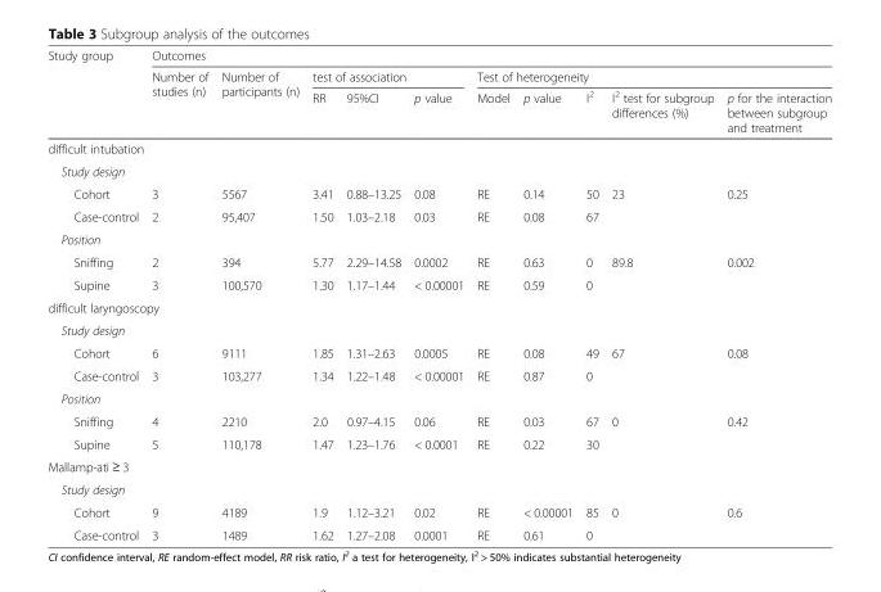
<table><thead><tr><td rowspan="3">Study group</td><td colspan="10">Outcomes</td></tr><tr><td rowspan="2">Number of studies (n)</td><td rowspan="2">Number of participants (n)</td><td colspan="3">test of association</td><td colspan="5">Test of heterogeneity</td></tr><tr><td>RR</td><td>95%CI</td><td>p value</td><td>Model</td><td>p value</td><td>I<sup>2</sup></td><td>I<sup>2</sup> test for subgroup differences (%)</td><td>p for the interaction between subgroup and treatment</td></tr></thead><tbody><tr><td colspan="11">difficult intubation</td></tr><tr><td colspan="11">Study design</td></tr><tr><td>Cohort</td><td>3</td><td>5567</td><td>3.41</td><td>0.88–13.25</td><td>0.08</td><td>RE</td><td>0.14</td><td>50</td><td rowspan="2">23</td><td rowspan="2">0.25</td></tr><tr><td>Case-control</td><td>2</td><td>95,407</td><td>1.50</td><td>1.03–2.18</td><td>0.03</td><td>RE</td><td>0.08</td><td>67</td></tr><tr><td colspan="11">Position</td></tr><tr><td>Sniffing</td><td>2</td><td>394</td><td>5.77</td><td>2.29–14.58</td><td>0.0002</td><td>RE</td><td>0.63</td><td>0</td><td rowspan="2">89.8</td><td rowspan="2">0.002</td></tr><tr><td>Supine</td><td>3</td><td>100,570</td><td>1.30</td><td>1.17–1.44</td><td>&lt; 0.00001</td><td>RE</td><td>0.59</td><td>0</td></tr><tr><td colspan="11">difficult laryngoscopy</td></tr><tr><td colspan="11">Study design</td></tr><tr><td>Cohort</td><td>6</td><td>9111</td><td>1.85</td><td>1.31–2.63</td><td>0.0005</td><td>RE</td><td>0.08</td><td>49</td><td rowspan="2">67</td><td rowspan="2">0.08</td></tr><tr><td>Case-control</td><td>3</td><td>103,277</td><td>1.34</td><td>1.22–1.48</td><td>&lt; 0.00001</td><td>RE</td><td>0.87</td><td>0</td></tr><tr><td colspan="11">Position</td></tr><tr><td>Sniffing</td><td>4</td><td>2210</td><td>2.0</td><td>0.97–4.15</td><td>0.06</td><td>RE</td><td>0.03</td><td>67</td><td rowspan="2">0</td><td rowspan="2">0.42</td></tr><tr><td>Supine</td><td>5</td><td>110,178</td><td>1.47</td><td>1.23–1.76</td><td>&lt; 0.0001</td><td>RE</td><td>0.22</td><td>30</td></tr><tr><td colspan="11">Mallamp-ati ≥ 3</td></tr><tr><td colspan="11">Study design</td></tr><tr><td>Cohort</td><td>9</td><td>4189</td><td>1.9</td><td>1.12–3.21</td><td>0.02</td><td>RE</td><td>&lt; 0.00001</td><td>85</td><td>0</td><td>0.6</td></tr><tr><td>Case-control</td><td>3</td><td>1489</td><td>1.62</td><td>1.27–2.08</td><td>0.0001</td><td>RE</td><td>0.61</td><td>0</td><td></td><td></td></tr></tbody></table>